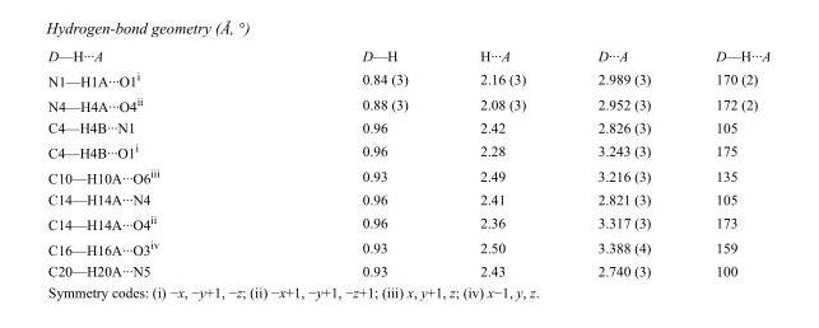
<table><tbody><tr><td>D—H···A</td><td>D—H</td><td>H···A</td><td>D···A</td><td>D—H···A</td></tr><tr><td>N1—H1A···O1<sup>i</sup></td><td>0.84 (3)</td><td>2.16 (3)</td><td>2.989 (3)</td><td>170 (2)</td></tr><tr><td>N4—H4A···O4<sup>ii</sup></td><td>0.88 (3)</td><td>2.08 (3)</td><td>2.952 (3)</td><td>172 (2)</td></tr><tr><td>C4—H4B···N1</td><td>0.96</td><td>2.42</td><td>2.826 (3)</td><td>105</td></tr><tr><td>C4—H4B···O1<sup>i</sup></td><td>0.96</td><td>2.28</td><td>3.243 (3)</td><td>175</td></tr><tr><td>C10—H10A···O6<sup>iii</sup></td><td>0.93</td><td>2.49</td><td>3.216 (3)</td><td>135</td></tr><tr><td>C14—H14A···N4</td><td>0.96</td><td>2.41</td><td>2.821 (3)</td><td>105</td></tr><tr><td>C14—H14A···O4<sup>ii</sup></td><td>0.96</td><td>2.36</td><td>3.317 (3)</td><td>173</td></tr><tr><td>C16—H16A···O3<sup>iv</sup></td><td>0.93</td><td>2.50</td><td>3.388 (4)</td><td>159</td></tr><tr><td>C20—H20A···N5</td><td>0.93</td><td>2.43</td><td>2.740 (3)</td><td>100</td></tr></tbody></table>